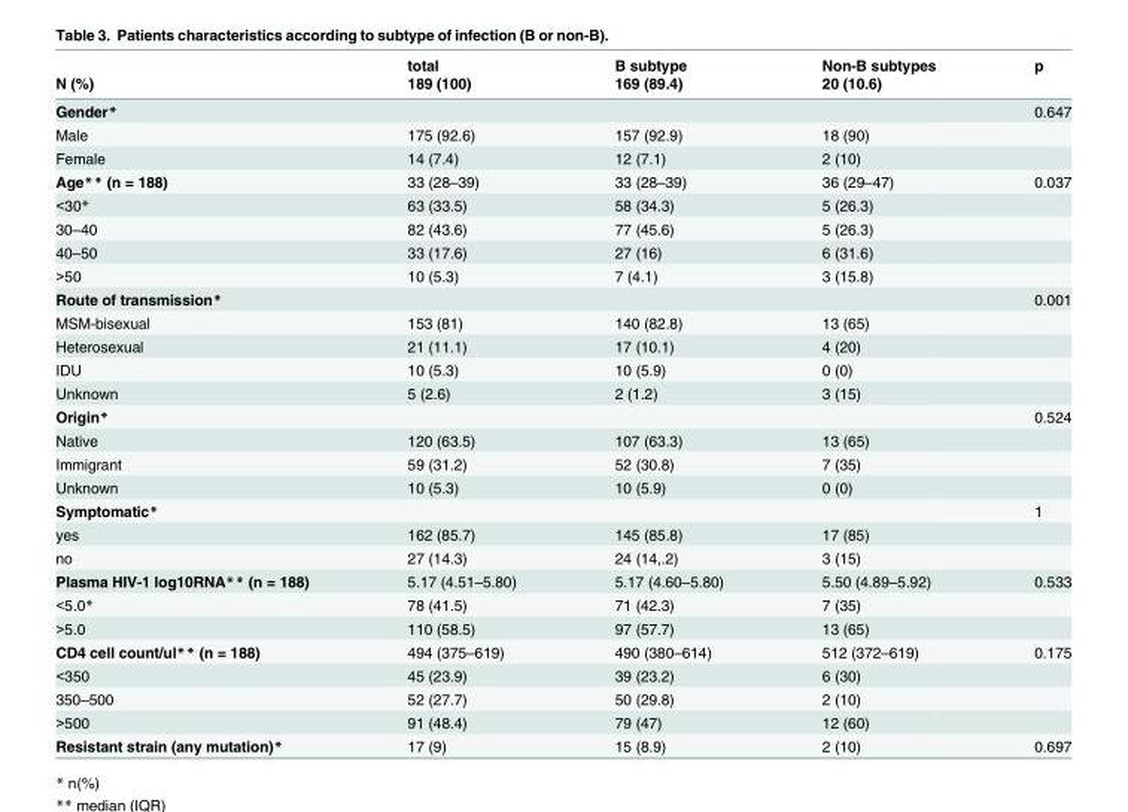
<table><thead><tr><td rowspan="2">N (%)</td><td rowspan="2">total 189 (100)</td><td rowspan="2">B subtype 169 (89.4)</td><td rowspan="2">Non-B subtypes 20 (10.6)</td><td rowspan="2">p</td></tr><tr></tr></thead><tbody><tr><td>Gender*</td><td></td><td></td><td></td><td>0.647</td></tr><tr><td>Male</td><td>175 (92.6)</td><td>157 (92.9)</td><td>18 (90)</td><td></td></tr><tr><td>Female</td><td>14 (7.4)</td><td>12 (7.1)</td><td>2 (10)</td><td></td></tr><tr><td>Age** (n = 188)</td><td>33 (28–39)</td><td>33 (28–39)</td><td>36 (29–47)</td><td>0.037</td></tr><tr><td>&lt;30*</td><td>63 (33.5)</td><td>58 (34.3)</td><td>5 (26.3)</td><td></td></tr><tr><td>30–40</td><td>82 (43.6)</td><td>77 (45.6)</td><td>5 (26.3)</td><td></td></tr><tr><td>40–50</td><td>33 (17.6)</td><td>27 (16)</td><td>6 (31.6)</td><td></td></tr><tr><td>&gt;50</td><td>10 (5.3)</td><td>7 (4.1)</td><td>3 (15.8)</td><td></td></tr><tr><td>Route of transmission*</td><td></td><td></td><td></td><td>0.001</td></tr><tr><td>MSM-bisexual</td><td>153 (81)</td><td>140 (82.8)</td><td>13 (65)</td><td></td></tr><tr><td>Heterosexual</td><td>21 (11.1)</td><td>17 (10.1)</td><td>4 (20)</td><td></td></tr><tr><td>IDU</td><td>10 (5.3)</td><td>10 (5.9)</td><td>0 (0)</td><td></td></tr><tr><td>Unknown</td><td>5 (2.6)</td><td>2 (1.2)</td><td>3 (15)</td><td></td></tr><tr><td>Origin*</td><td></td><td></td><td></td><td>0.524</td></tr><tr><td>Native</td><td>120 (63.5)</td><td>107 (63.3)</td><td>13 (65)</td><td></td></tr><tr><td>Immigrant</td><td>59 (31.2)</td><td>52 (30.8)</td><td>7 (35)</td><td></td></tr><tr><td>Unknown</td><td>10 (5.3)</td><td>10 (5.9)</td><td>0 (0)</td><td></td></tr><tr><td>Symptomatic*</td><td></td><td></td><td></td><td>1</td></tr><tr><td>yes</td><td>162 (85.7)</td><td>145 (85.8)</td><td>17 (85)</td><td></td></tr><tr><td>no</td><td>27 (14.3)</td><td>24 (14,.2)</td><td>3 (15)</td><td></td></tr><tr><td>Plasma HIV-1 log10RNA** (n = 188)</td><td>5.17 (4.51–5.80)</td><td>5.17 (4.60–5.80)</td><td>5.50 (4.89–5.92)</td><td>0.533</td></tr><tr><td>&lt;5.0*</td><td>78 (41.5)</td><td>71 (42.3)</td><td>7 (35)</td><td></td></tr><tr><td>&gt;5.0</td><td>110 (58.5)</td><td>97 (57.7)</td><td>13 (65)</td><td></td></tr><tr><td>CD4 cell count/ul** (n = 188)</td><td>494 (375–619)</td><td>490 (380–614)</td><td>512 (372–619)</td><td>0.175</td></tr><tr><td>&lt;350</td><td>45 (23.9)</td><td>39 (23.2)</td><td>6 (30)</td><td></td></tr><tr><td>350–500</td><td>52 (27.7)</td><td>50 (29.8)</td><td>2 (10)</td><td></td></tr><tr><td>&gt;500</td><td>91 (48.4)</td><td>79 (47)</td><td>12 (60)</td><td></td></tr><tr><td>Resistant strain (any mutation)*</td><td>17 (9)</td><td>15 (8.9)</td><td>2 (10)</td><td>0.697</td></tr></tbody></table>